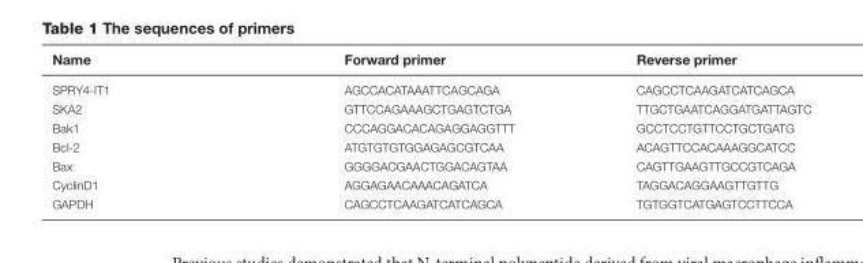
<table><thead><tr><td>Name</td><td>Forward primer</td><td>Reverse primer</td></tr></thead><tbody><tr><td>SPRY4-IT1</td><td>AGCCACATAAATTCAGCAGA</td><td>CAGCCTCAAGATCATCAGCA</td></tr><tr><td>SKA2</td><td>GTTCCAGAAAGCTGAGTCTGA</td><td>TTGCTGAATCAGGATGATTAGTC</td></tr><tr><td>Bak1</td><td>CCCAGGACACAGAGGAGGTTT</td><td>GCCTCCTGTTCCTGCTGATG</td></tr><tr><td>Bcl-2</td><td>ATGTGTGTGGAGAGCGTCAA</td><td>ACAGTTCCACAAAGGCATCC</td></tr><tr><td>Bax</td><td>GGGGACGAACTGGACAGTAA</td><td>CAGTTGAAGTTGCCGTCAGA</td></tr><tr><td>CyclinD1</td><td>AGGAGAACAAACAGATCA</td><td>TAGGACAGGAAGTTGTTG</td></tr><tr><td>GAPDH</td><td>CAGCCTCAAGATCATCAGCA</td><td>TGTGGTCATGAGTCCTTCCA</td></tr></tbody></table>